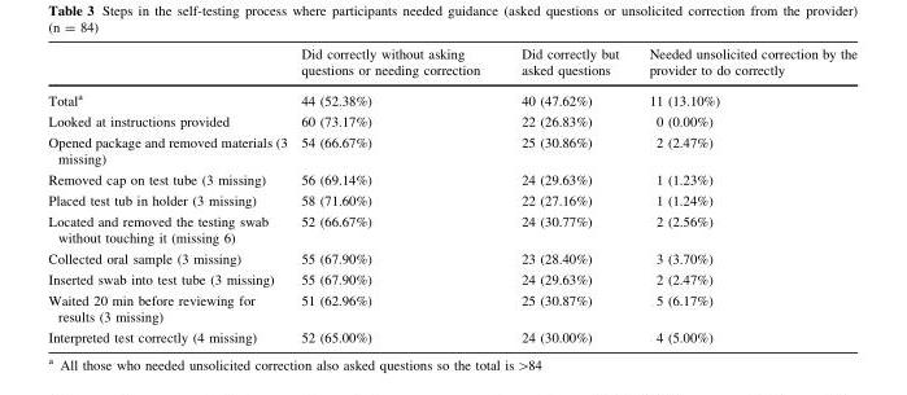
<table><thead><tr><td></td><td>Did correctly without asking questions or needing correction</td><td>Did correctly but asked questions</td><td>Needed unsolicited correction by the provider to do correctly</td></tr></thead><tbody><tr><td>Total<sup>a</sup></td><td>44 (52.38%)</td><td>40 (47.62%)</td><td>11 (13.10%)</td></tr><tr><td>Looked at instructions provided</td><td>60 (73.17%)</td><td>22 (26.83%)</td><td>0 (0.00%)</td></tr><tr><td>Opened package and removed materials (3 missing)</td><td>54 (66.67%)</td><td>25 (30.86%)</td><td>2 (2.47%)</td></tr><tr><td>Removed cap on test tube (3 missing)</td><td>56 (69.14%)</td><td>24 (29.63%)</td><td>1 (1.23%)</td></tr><tr><td>Placed test tub in holder (3 missing)</td><td>58 (71.60%)</td><td>22 (27.16%)</td><td>1 (1.24%)</td></tr><tr><td>Located and removed the testing swab without touching it (missing 6)</td><td>52 (66.67%)</td><td>24 (30.77%)</td><td>2 (2.56%)</td></tr><tr><td>Collected oral sample (3 missing)</td><td>55 (67.90%)</td><td>23 (28.40%)</td><td>3 (3.70%)</td></tr><tr><td>Inserted swab into test tube (3 missing)</td><td>55 (67.90%)</td><td>24 (29.63%)</td><td>2 (2.47%)</td></tr><tr><td>Waited 20 min before reviewing for results (3 missing)</td><td>51 (62.96%)</td><td>25 (30.87%)</td><td>5 (6.17%)</td></tr><tr><td>Interpreted test correctly (4 missing)</td><td>52 (65.00%)</td><td>24 (30.00%)</td><td>4 (5.00%)</td></tr></tbody></table>